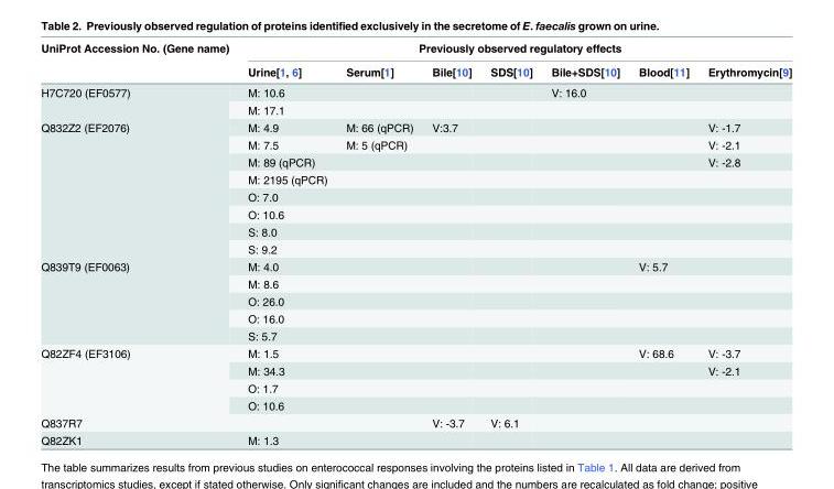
<table><thead><tr><td rowspan="2">UniProt Accession No. (Gene name)</td><td colspan="7">Previously observed regulatory effects</td></tr><tr><td>Urine[1, 6]</td><td>Serum[1]</td><td>Bile[10]</td><td>SDS[10]</td><td>Bile+SDS[10]</td><td>Blood[11]</td><td>Erythromycin[9]</td></tr></thead><tbody><tr><td rowspan="2">H7C720 (EF0577)</td><td>M: 10.6</td><td></td><td></td><td></td><td>V: 16.0</td><td></td><td></td></tr><tr><td>M: 17.1</td><td></td><td></td><td></td><td></td><td></td><td></td></tr><tr><td rowspan="8">Q832Z2 (EF2076)</td><td>M: 4.9</td><td>M: 66 (qPCR)</td><td>V:3.7</td><td></td><td></td><td></td><td>V: -1.7</td></tr><tr><td>M: 7.5</td><td>M: 5 (qPCR)</td><td></td><td></td><td></td><td></td><td>V: -2.1</td></tr><tr><td>M: 89 (qPCR)</td><td></td><td></td><td></td><td></td><td></td><td>V: -2.8</td></tr><tr><td>M: 2195 (qPCR)</td><td></td><td></td><td></td><td></td><td></td><td></td></tr><tr><td>O: 7.0</td><td></td><td></td><td></td><td></td><td></td><td></td></tr><tr><td>O: 10.6</td><td></td><td></td><td></td><td></td><td></td><td></td></tr><tr><td>S: 8.0</td><td></td><td></td><td></td><td></td><td></td><td></td></tr><tr><td>S: 9.2</td><td></td><td></td><td></td><td></td><td></td><td></td></tr><tr><td rowspan="5">Q839T9 (EF0063)</td><td>M: 4.0</td><td></td><td></td><td></td><td></td><td>V: 5.7</td><td></td></tr><tr><td>M: 8.6</td><td></td><td></td><td></td><td></td><td></td><td></td></tr><tr><td>O: 26.0</td><td></td><td></td><td></td><td></td><td></td><td></td></tr><tr><td>O: 16.0</td><td></td><td></td><td></td><td></td><td></td><td></td></tr><tr><td>S: 5.7</td><td></td><td></td><td></td><td></td><td></td><td></td></tr><tr><td rowspan="4">Q82ZF4 (EF3106)</td><td>M: 1.5</td><td></td><td></td><td></td><td></td><td>V: 68.6</td><td>V: -3.7</td></tr><tr><td>M: 34.3</td><td></td><td></td><td></td><td></td><td></td><td>V: -2.1</td></tr><tr><td>O: 1.7</td><td></td><td></td><td></td><td></td><td></td><td></td></tr><tr><td>O: 10.6</td><td></td><td></td><td></td><td></td><td></td><td></td></tr><tr><td>Q837R7</td><td></td><td></td><td>V: -3.7</td><td>V: 6.1</td><td></td><td></td><td></td></tr><tr><td>Q82ZK1</td><td>M: 1.3</td><td></td><td></td><td></td><td></td><td></td><td></td></tr></tbody></table>